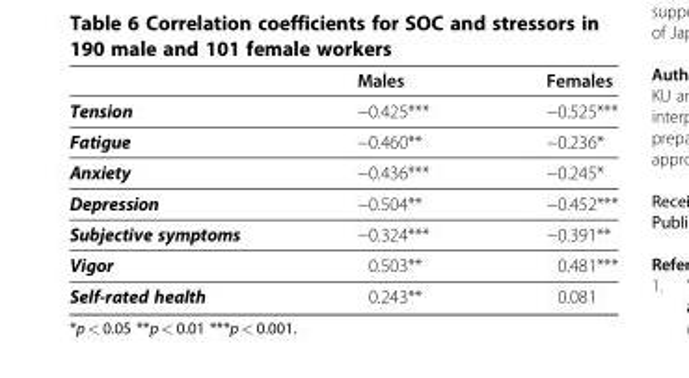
<table><thead><tr><td></td><td>Males</td><td>Females</td></tr></thead><tbody><tr><td>Tension</td><td>−0.425***</td><td>−0.525***</td></tr><tr><td>Fatigue</td><td>−0.460**</td><td>−0.236*</td></tr><tr><td>Anxiety</td><td>−0.436***</td><td>−0.245*</td></tr><tr><td>Depression</td><td>−0.504**</td><td>−0.452***</td></tr><tr><td>Subjective symptoms</td><td>−0.324***</td><td>−0.391**</td></tr><tr><td>Vigor</td><td>0.503**</td><td>0.481***</td></tr><tr><td>Self-rated health</td><td>0.243**</td><td>0.081</td></tr></tbody></table>